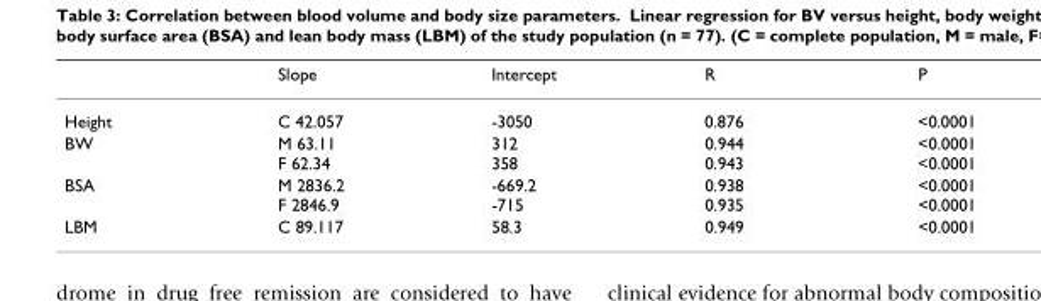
<table><thead><tr><td></td><td>Slope</td><td>Intercept</td><td>R</td><td>P</td></tr></thead><tbody><tr><td>Height</td><td>C 42.057</td><td>-3050</td><td>0.876</td><td>&lt;0.0001</td></tr><tr><td>BW</td><td>M 63.11 F 62.34</td><td>312 358</td><td>0.944 0.943</td><td>&lt;0.0001 &lt;0.0001</td></tr><tr><td>BSA</td><td>M 2836.2 F 2846.9</td><td>-669.2 -715</td><td>0.938 0.935</td><td>&lt;0.0001 &lt;0.0001</td></tr><tr><td>LBM</td><td>C 89.117</td><td>58.3</td><td>0.949</td><td>&lt;0.0001</td></tr></tbody></table>